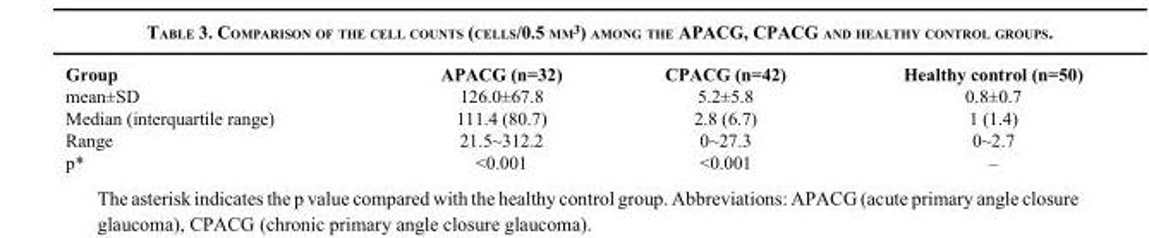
<table><thead><tr><td>Group</td><td>APACG (n=32)</td><td>CPACG (n=42)</td><td>Healthy control (n=50)</td></tr></thead><tbody><tr><td>mean±SD</td><td>126.0±67.8</td><td>5.2±5.8</td><td>0.8±0.7</td></tr><tr><td>Median (interquartile range)</td><td>111.4 (80.7)</td><td>2.8 (6.7)</td><td>1 (1.4)</td></tr><tr><td>Range</td><td>21.5~312.2</td><td>0~27.3</td><td>0~2.7</td></tr><tr><td>p*</td><td>&lt;0.001</td><td>&lt;0.001</td><td>–</td></tr></tbody></table>